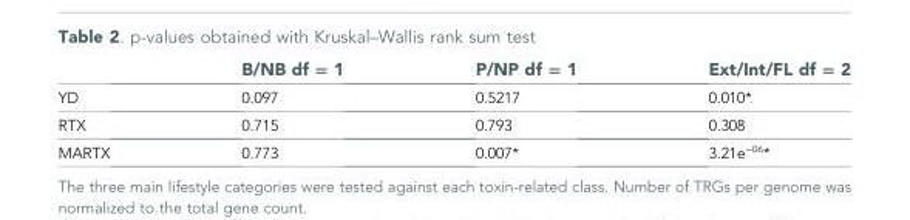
<table><thead><tr><td></td><td>B/NB df = 1</td><td>P/NP df = 1</td><td>Ext/Int/FL df = 2</td></tr></thead><tbody><tr><td>YD</td><td>0.097</td><td>0.5217</td><td>0.010*</td></tr><tr><td>RTX</td><td>0.715</td><td>0.793</td><td>0.308</td></tr><tr><td>MARTX</td><td>0.773</td><td>0.007*</td><td>3.21e<sup>−06</sup>*</td></tr></tbody></table>